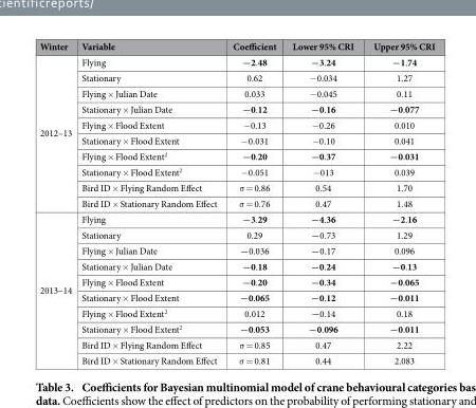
<table><thead><tr><td>Winter</td><td>Variable</td><td>Coefficient</td><td>Lower 95% CRI</td><td>Upper 95% CRI</td></tr></thead><tbody><tr><td rowspan="10">2012–13</td><td>Flying</td><td>−2.48</td><td>−3.24</td><td>−1.74</td></tr><tr><td>Stationary</td><td>0.62</td><td>− 0.034</td><td>1.27</td></tr><tr><td>Flying × Julian Date</td><td>0.033</td><td>− 0.045</td><td>0.11</td></tr><tr><td>Stationary × Julian Date</td><td>−0.12</td><td>−0.16</td><td>−0.077</td></tr><tr><td>Flying × Flood Extent</td><td>− 0.13</td><td>− 0.26</td><td>0.010</td></tr><tr><td>Stationary × Flood Extent</td><td>− 0.031</td><td>− 0.10</td><td>0.041</td></tr><tr><td>Flying × Flood Extent<sup>2</sup></td><td>−0.20</td><td>−0.37</td><td>−0.031</td></tr><tr><td>Stationary × Flood Extent<sup>2</sup></td><td>− 0.051</td><td>− 013</td><td>0.039</td></tr><tr><td>Bird ID × Flying Random Effect</td><td>σ = 0.86</td><td>0.54</td><td>1.70</td></tr><tr><td>Bird ID × Stationary Random Effect</td><td>σ = 0.76</td><td>0.47</td><td>1.48</td></tr><tr><td rowspan="10">2013–14</td><td>Flying</td><td>−3.29</td><td>−4.36</td><td>−2.16</td></tr><tr><td>Stationary</td><td>0.29</td><td>−0.73</td><td>1.29</td></tr><tr><td>Flying × Julian Date</td><td>−0.036</td><td>−0.17</td><td>0.096</td></tr><tr><td>Stationary × Julian Date</td><td>−0.18</td><td>−0.24</td><td>−0.13</td></tr><tr><td>Flying × Flood Extent</td><td>−0.20</td><td>−0.34</td><td>−0.065</td></tr><tr><td>Stationary × Flood Extent</td><td>−0.065</td><td>−0.12</td><td>−0.011</td></tr><tr><td>Flying × Flood Extent<sup>2</sup></td><td>0.012</td><td>−0.14</td><td>0.18</td></tr><tr><td>Stationary × Flood Extent<sup>2</sup></td><td>−0.053</td><td>−0.096</td><td>−0.011</td></tr><tr><td>Bird ID × Flying Random Effect</td><td>σ = 0.85</td><td>0.47</td><td>2.22</td></tr><tr><td>Bird ID × Stationary Random Effect</td><td>σ = 0.81</td><td>0.44</td><td>2.083</td></tr></tbody></table>